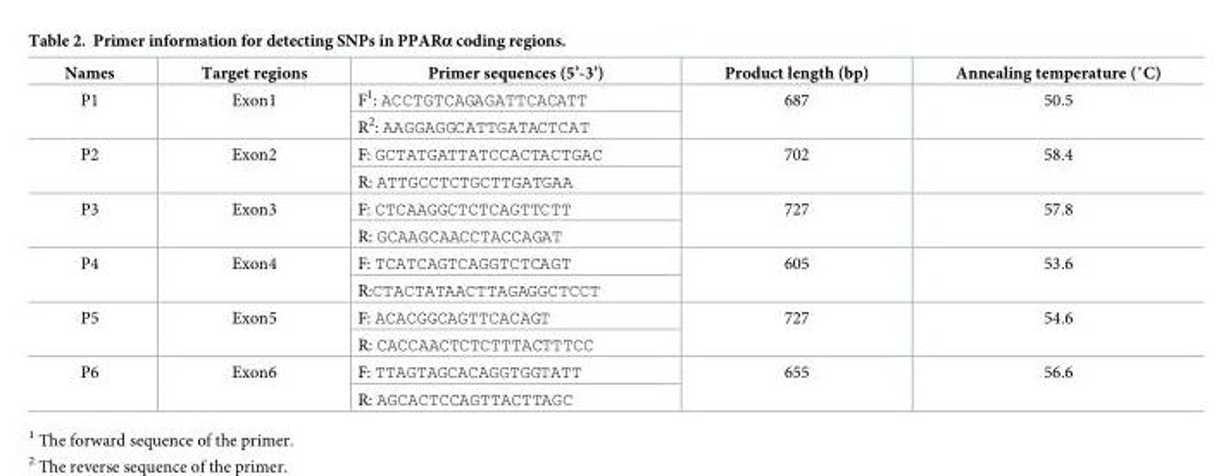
<table><thead><tr><td>Names</td><td>Target regions</td><td>Primer sequences (5’-3’)</td><td>Product length (bp)</td><td>Annealing temperature (˚C)</td></tr></thead><tbody><tr><td rowspan="2">P1</td><td rowspan="2">Exon1</td><td>F<sup>1</sup>: ACCTGTCAGAGATTCACATT</td><td rowspan="2">687</td><td rowspan="2">50.5</td></tr><tr><td>R<sup>2</sup>: AAGGAGGCATTGATACTCAT</td></tr><tr><td rowspan="2">P2</td><td rowspan="2">Exon2</td><td>F: GCTATGATTATCCACTACTGAC</td><td rowspan="2">702</td><td rowspan="2">58.4</td></tr><tr><td>R: ATTGCCTCTGCTTGATGAA</td></tr><tr><td rowspan="2">P3</td><td rowspan="2">Exon3</td><td>F: CTCAAGGCTCTCAGTTCTT</td><td rowspan="2">727</td><td rowspan="2">57.8</td></tr><tr><td>R: GCAAGCAACCTACCAGAT</td></tr><tr><td rowspan="2">P4</td><td rowspan="2">Exon4</td><td>F: TCATCAGTCAGGTCTCAGT</td><td rowspan="2">605</td><td rowspan="2">53.6</td></tr><tr><td>R:CTACTATAACTTAGAGGCTCCT</td></tr><tr><td rowspan="2">P5</td><td rowspan="2">Exon5</td><td>F: ACACGGCAGTTCACAGT</td><td rowspan="2">727</td><td rowspan="2">54.6</td></tr><tr><td>R: CACCAACTCTCTTTACTTTCC</td></tr><tr><td rowspan="2">P6</td><td rowspan="2">Exon6</td><td>F: TTAGTAGCACAGGTGGTATT</td><td rowspan="2">655</td><td rowspan="2">56.6</td></tr><tr><td>R: AGCACTCCAGTTACTTAGC</td></tr></tbody></table>